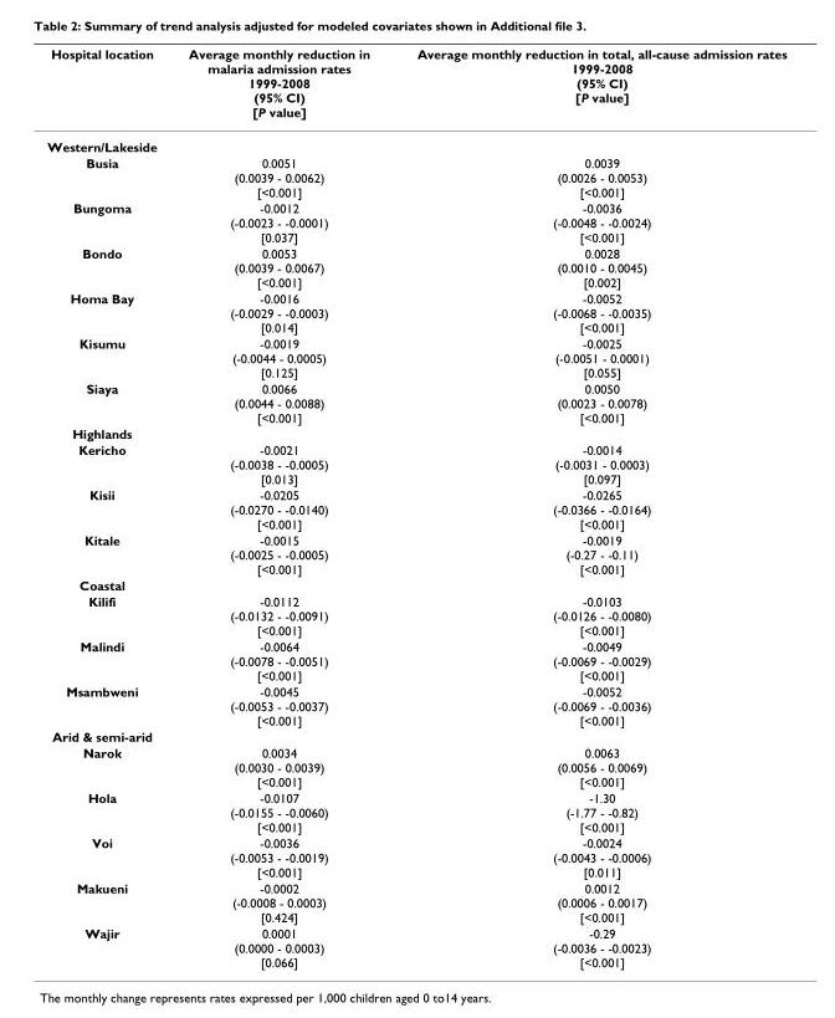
<table><thead><tr><td>Hospital location</td><td>Average monthly reduction in malaria admission rates 1999-2008 (95% CI) [P value]</td><td>Average monthly reduction in total, all-cause admission rates 1999-2008 (95% CI) [P value]</td></tr></thead><tbody><tr><td colspan="3">Western/Lakeside</td></tr><tr><td>Busia</td><td>0.0051 (0.0039 - 0.0062) [&lt;0.001]</td><td>0.0039 (0.0026 - 0.0053) [&lt;0.001]</td></tr><tr><td>Bungoma</td><td>-0.0012 (-0.0023 - -0.0001) [0.037]</td><td>-0.0036 (-0.0048 - -0.0024) [&lt;0.001]</td></tr><tr><td>Bondo</td><td>0.0053 (0.0039 - 0.0067) [&lt;0.001]</td><td>0.0028 (0.0010 - 0.0045) [0.002]</td></tr><tr><td>Homa Bay</td><td>-0.0016 (-0.0029 - -0.0003) [0.014]</td><td>-0.0052 (-0.0068 - -0.0035) [&lt;0.001]</td></tr><tr><td>Kisumu</td><td>-0.0019 (-0.0044 - 0.0005) [0.125]</td><td>-0.0025 (-0.0051 - 0.0001) [0.055]</td></tr><tr><td>Siaya</td><td>0.0066 (0.0044 - 0.0088) [&lt;0.001]</td><td>0.0050 (0.0023 - 0.0078) [&lt;0.001]</td></tr><tr><td colspan="3">Highlands</td></tr><tr><td>Kericho</td><td>-0.0021 (-0.0038 - -0.0005) [0.013]</td><td>-0.0014 (-0.0031 - 0.0003) [0.097]</td></tr><tr><td>Kisii</td><td>-0.0205 (-0.0270 - -0.0140) [&lt;0.001]</td><td>-0.0265 (-0.0366 - -0.0164) [&lt;0.001]</td></tr><tr><td>Kitale</td><td>-0.0015 (-0.0025 - -0.0005) [&lt;0.001]</td><td>-0.0019 (-0.27 - -0.11) [&lt;0.001]</td></tr><tr><td colspan="3">Coastal</td></tr><tr><td>Kilifi</td><td>-0.0112 (-0.0132 - -0.0091) [&lt;0.001]</td><td>-0.0103 (-0.0126 - -0.0080) [&lt;0.001]</td></tr><tr><td>Malindi</td><td>-0.0064 (-0.0078 - -0.0051) [&lt;0.001]</td><td>-0.0049 (-0.0069 - -0.0029) [&lt;0.001]</td></tr><tr><td>Msambweni</td><td>-0.0045 (-0.0053 - -0.0037) [&lt;0.001]</td><td>-0.0052 (-0.0069 - -0.0036) [&lt;0.001]</td></tr><tr><td colspan="3">Arid &amp; semi-arid</td></tr><tr><td>Narok</td><td>0.0034 (0.0030 - 0.0039) [&lt;0.001]</td><td>0.0063 (0.0056 - 0.0069) [&lt;0.001]</td></tr><tr><td>Hola</td><td>-0.0107 (-0.0155 - -0.0060) [&lt;0.001]</td><td>-1.30 (-1.77 - -0.82) [&lt;0.001]</td></tr><tr><td>Voi</td><td>-0.0036 (-0.0053 - -0.0019) [&lt;0.001]</td><td>-0.0024 (-0.0043 - -0.0006) [0.011]</td></tr><tr><td>Makueni</td><td>-0.0002 (-0.0008 - 0.0003) [0.424]</td><td>0.0012 (0.0006 - 0.0017) [&lt;0.001]</td></tr><tr><td>Wajir</td><td>0.0001 (0.0000 - 0.0003) [0.066]</td><td>-0.29 (-0.0036 - -0.0023) [&lt;0.001]</td></tr></tbody></table>